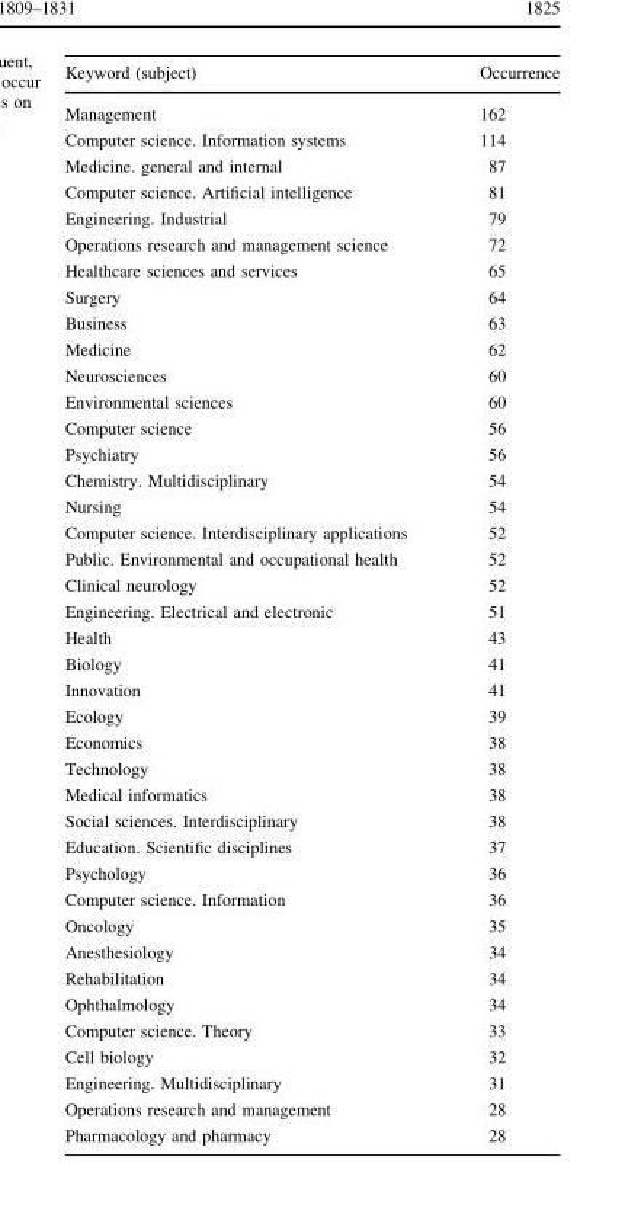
<table><thead><tr><td>Keyword (subject)</td><td>Occurrence</td></tr></thead><tbody><tr><td>Management</td><td>162</td></tr><tr><td>Computer science. Information systems</td><td>114</td></tr><tr><td>Medicine. general and internal</td><td>87</td></tr><tr><td>Computer science. Artificial intelligence</td><td>81</td></tr><tr><td>Engineering. Industrial</td><td>79</td></tr><tr><td>Operations research and management science</td><td>72</td></tr><tr><td>Healthcare sciences and services</td><td>65</td></tr><tr><td>Surgery</td><td>64</td></tr><tr><td>Business</td><td>63</td></tr><tr><td>Medicine</td><td>62</td></tr><tr><td>Neurosciences</td><td>60</td></tr><tr><td>Environmental sciences</td><td>60</td></tr><tr><td>Computer science</td><td>56</td></tr><tr><td>Psychiatry</td><td>56</td></tr><tr><td>Chemistry. Multidisciplinary</td><td>54</td></tr><tr><td>Nursing</td><td>54</td></tr><tr><td>Computer science. Interdisciplinary applications</td><td>52</td></tr><tr><td>Public. Environmental and occupational health</td><td>52</td></tr><tr><td>Clinical neurology</td><td>52</td></tr><tr><td>Engineering. Electrical and electronic</td><td>51</td></tr><tr><td>Health</td><td>43</td></tr><tr><td>Biology</td><td>41</td></tr><tr><td>Innovation</td><td>41</td></tr><tr><td>Ecology</td><td>39</td></tr><tr><td>Economics</td><td>38</td></tr><tr><td>Technology</td><td>38</td></tr><tr><td>Medical informatics</td><td>38</td></tr><tr><td>Social sciences. Interdisciplinary</td><td>38</td></tr><tr><td>Education. Scientific disciplines</td><td>37</td></tr><tr><td>Psychology</td><td>36</td></tr><tr><td>Computer science. Information</td><td>36</td></tr><tr><td>Oncology</td><td>35</td></tr><tr><td>Anesthesiology</td><td>34</td></tr><tr><td>Rehabilitation</td><td>34</td></tr><tr><td>Ophthalmology</td><td>34</td></tr><tr><td>Computer science. Theory</td><td>33</td></tr><tr><td>Cell biology</td><td>32</td></tr><tr><td>Engineering. Multidisciplinary</td><td>31</td></tr><tr><td>Operations research and management</td><td>28</td></tr><tr><td>Pharmacology and pharmacy</td><td>28</td></tr></tbody></table>